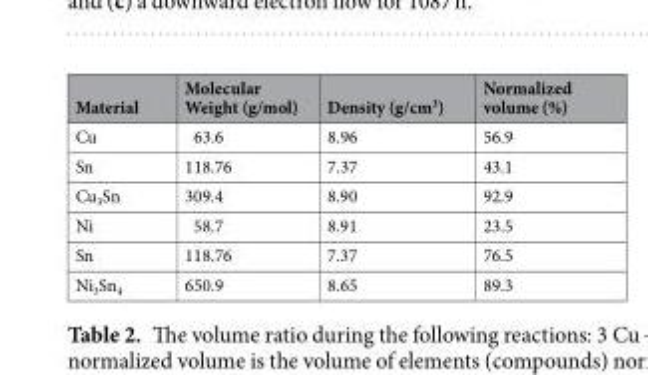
<table><thead><tr><td>Material</td><td>Molecular Weight (g/mol)</td><td>Density (g/cm<sup>3</sup>)</td><td>Normalized volume (%)</td></tr></thead><tbody><tr><td>Cu</td><td>63.6</td><td>8.96</td><td>56.9</td></tr><tr><td>Sn</td><td>118.76</td><td>7.37</td><td>43.1</td></tr><tr><td>Cu<sub>3</sub>Sn</td><td>309.4</td><td>8.90</td><td>92.9</td></tr><tr><td>Ni</td><td>58.7</td><td>8.91</td><td>23.5</td></tr><tr><td>Sn</td><td>118.76</td><td>7.37</td><td>76.5</td></tr><tr><td>Ni<sub>3</sub>Sn<sub>4</sub></td><td>650.9</td><td>8.65</td><td>89.3</td></tr></tbody></table>